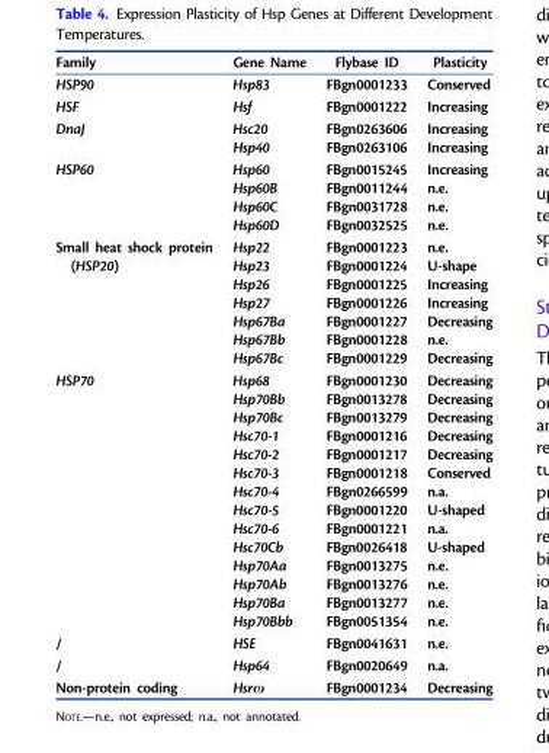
<table><thead><tr><td>Family</td><td>Gene Name</td><td>Flybase ID</td><td>Plasticity</td></tr></thead><tbody><tr><td>HSP90</td><td>Hsp83</td><td>FBgn0001233</td><td>Conserved</td></tr><tr><td>HSF</td><td>Hsf</td><td>FBgn0001222</td><td>Increasing</td></tr><tr><td rowspan="2">DnaJ</td><td>Hsc20</td><td>FBgn0263606</td><td>Increasing</td></tr><tr><td>Hsp40</td><td>FBgn0263106</td><td>Increasing</td></tr><tr><td rowspan="4">HSP60</td><td>Hsp60</td><td>FBgn0015245</td><td>Increasing</td></tr><tr><td>Hsp60B</td><td>FBgn0011244</td><td>n.e.</td></tr><tr><td>Hsp60C</td><td>FBgn0031728</td><td>n.e.</td></tr><tr><td>Hsp60D</td><td>FBgn0032525</td><td>n.e.</td></tr><tr><td rowspan="7">Small heat shock protein (HSP20)</td><td>Hsp22</td><td>FBgn0001223</td><td>n.e.</td></tr><tr><td>Hsp23</td><td>FBgn0001224</td><td>U-shape</td></tr><tr><td>Hsp26</td><td>FBgn0001225</td><td>Increasing</td></tr><tr><td>Hsp27</td><td>FBgn0001226</td><td>Increasing</td></tr><tr><td>Hsp67Ba</td><td>FBgn0001227</td><td>Decreasing</td></tr><tr><td>Hsp67Bb</td><td>FBgn0001228</td><td>n.e.</td></tr><tr><td>Hsp67Bc</td><td>FBgn0001229</td><td>Decreasing</td></tr><tr><td rowspan="14">HSP70</td><td>Hsp68</td><td>FBgn0001230</td><td>Decreasing</td></tr><tr><td>Hsp70Bb</td><td>FBgn0013278</td><td>Decreasing</td></tr><tr><td>Hsp70Bc</td><td>FBgn0013279</td><td>Decreasing</td></tr><tr><td>Hsc70-1</td><td>FBgn0001216</td><td>Decreasing</td></tr><tr><td>Hsc70-2</td><td>FBgn0001217</td><td>Decreasing</td></tr><tr><td>Hsc70-3</td><td>FBgn0001218</td><td>Conserved</td></tr><tr><td>Hsc70-4</td><td>FBgn0266599</td><td>n.a.</td></tr><tr><td>Hsc70-5</td><td>FBgn0001220</td><td>U-shaped</td></tr><tr><td>Hsc70-6</td><td>FBgn0001221</td><td>n.a.</td></tr><tr><td>Hsc70Cb</td><td>FBgn0026418</td><td>U-shaped</td></tr><tr><td>Hsp70Aa</td><td>FBgn0013275</td><td>n.e.</td></tr><tr><td>Hsp70Ab</td><td>FBgn0013276</td><td>n.e.</td></tr><tr><td>Hsp70Ba</td><td>FBgn0013277</td><td>n.e.</td></tr><tr><td>Hsp70Bbb</td><td>FBgn0051354</td><td>n.e.</td></tr><tr><td>/</td><td>HSE</td><td>FBgn0041631</td><td>n.e.</td></tr><tr><td>/</td><td>Hsp64</td><td>FBgn0020649</td><td>n.a.</td></tr><tr><td>Non-protein coding</td><td>Hsrω</td><td>FBgn0001234</td><td>Decreasing</td></tr></tbody></table>